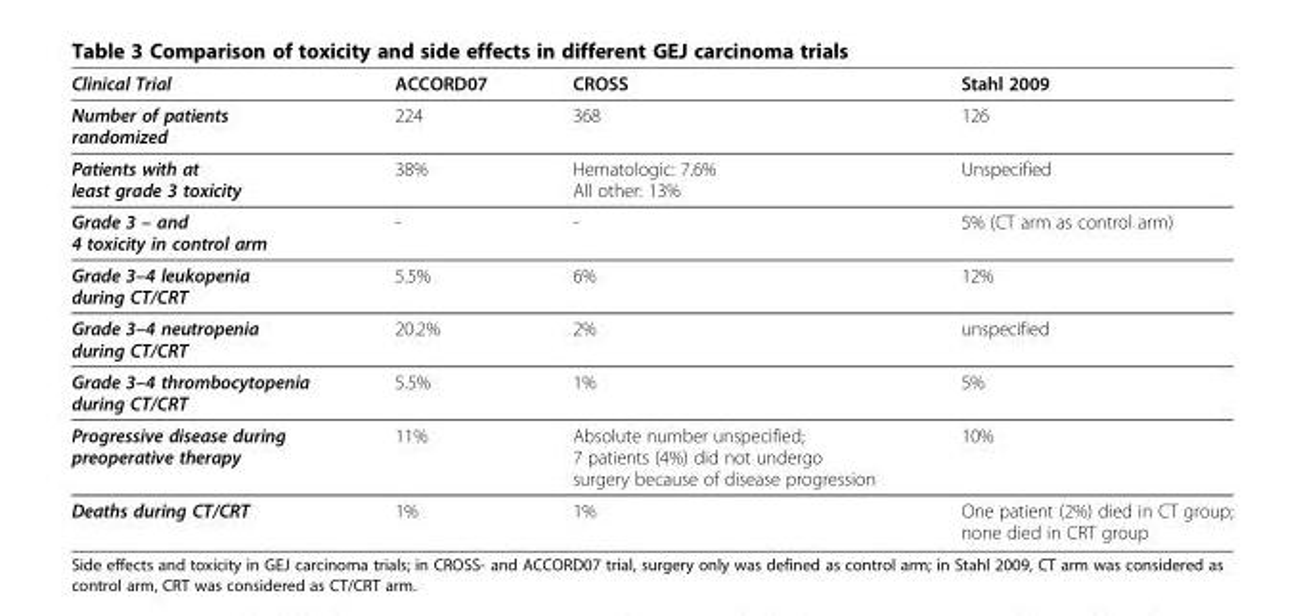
<table><thead><tr><td>Clinical Trial</td><td>ACCORD07</td><td>CROSS</td><td>Stahl 2009</td></tr></thead><tbody><tr><td>Number of patients randomized</td><td>224</td><td>368</td><td>126</td></tr><tr><td>Patients with at least grade 3 toxicity</td><td>38%</td><td>Hematologic: 7.6% All other: 13%</td><td>Unspecified</td></tr><tr><td>Grade 3 – and 4 toxicity in control arm</td><td>-</td><td>-</td><td>5% (CT arm as control arm)</td></tr><tr><td>Grade 3–4 leukopenia during CT/CRT</td><td>5.5%</td><td>6%</td><td>12%</td></tr><tr><td>Grade 3–4 neutropenia during CT/CRT</td><td>20.2%</td><td>2%</td><td>unspecified</td></tr><tr><td>Grade 3–4 thrombocytopenia during CT/CRT</td><td>5.5%</td><td>1%</td><td>5%</td></tr><tr><td>Progressive disease during preoperative therapy</td><td>11%</td><td>Absolute number unspecified; 7 patients (4%) did not undergo surgery because of disease progression</td><td>10%</td></tr><tr><td>Deaths during CT/CRT</td><td>1%</td><td>1%</td><td>One patient (2%) died in CT group; none died in CRT group</td></tr></tbody></table>